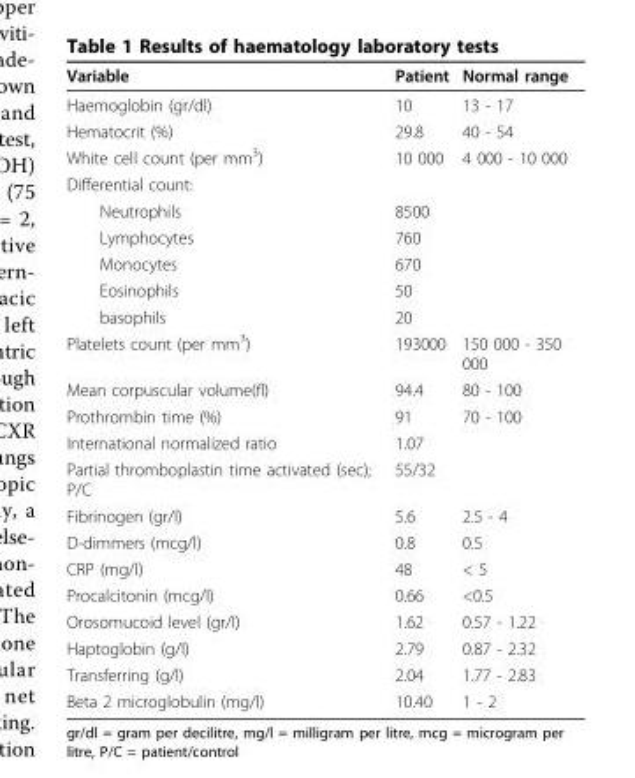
<table><thead><tr><td>Variable</td><td>Patient</td><td>Normal range</td></tr></thead><tbody><tr><td>Haemoglobin (gr/dl)</td><td>10</td><td>13 - 17</td></tr><tr><td>Hematocrit (%)</td><td>29.8</td><td>40 - 54</td></tr><tr><td>White cell count (per mm<sup>3</sup>)</td><td>10 000</td><td>4 000 - 10 000</td></tr><tr><td colspan="3">Differential count:</td></tr><tr><td>Neutrophils</td><td>8500</td><td></td></tr><tr><td>Lymphocytes</td><td>760</td><td></td></tr><tr><td>Monocytes</td><td>670</td><td></td></tr><tr><td>Eosinophils</td><td>50</td><td></td></tr><tr><td>basophils</td><td>20</td><td></td></tr><tr><td>Platelets count (per mm<sup>3</sup>)</td><td>193000</td><td>150 000 - 350 000</td></tr><tr><td>Mean corpuscular volume(fl)</td><td>94.4</td><td>80 - 100</td></tr><tr><td>Prothrombin time (%)</td><td>91</td><td>70 - 100</td></tr><tr><td>International normalized ratio</td><td>1.07</td><td></td></tr><tr><td>Partial thromboplastin time activated (sec); P/C</td><td>55/32</td><td></td></tr><tr><td>Fibrinogen (gr/l)</td><td>5.6</td><td>2.5 - 4</td></tr><tr><td>D-dimmers (mcg/l)</td><td>0.8</td><td>0.5</td></tr><tr><td>CRP (mg/l)</td><td>48</td><td>&lt; 5</td></tr><tr><td>Procalcitonin (mcg/l)</td><td>0.66</td><td>&lt;0.5</td></tr><tr><td>Orosomucoid level (gr/l)</td><td>1.62</td><td>0.57 - 1.22</td></tr><tr><td>Haptoglobin (g/l)</td><td>2.79</td><td>0.87 - 2.32</td></tr><tr><td>Transferring (g/l)</td><td>2.04</td><td>1.77 - 2.83</td></tr><tr><td>Beta 2 microglobulin (mg/l)</td><td>10.40</td><td>1 - 2</td></tr></tbody></table>